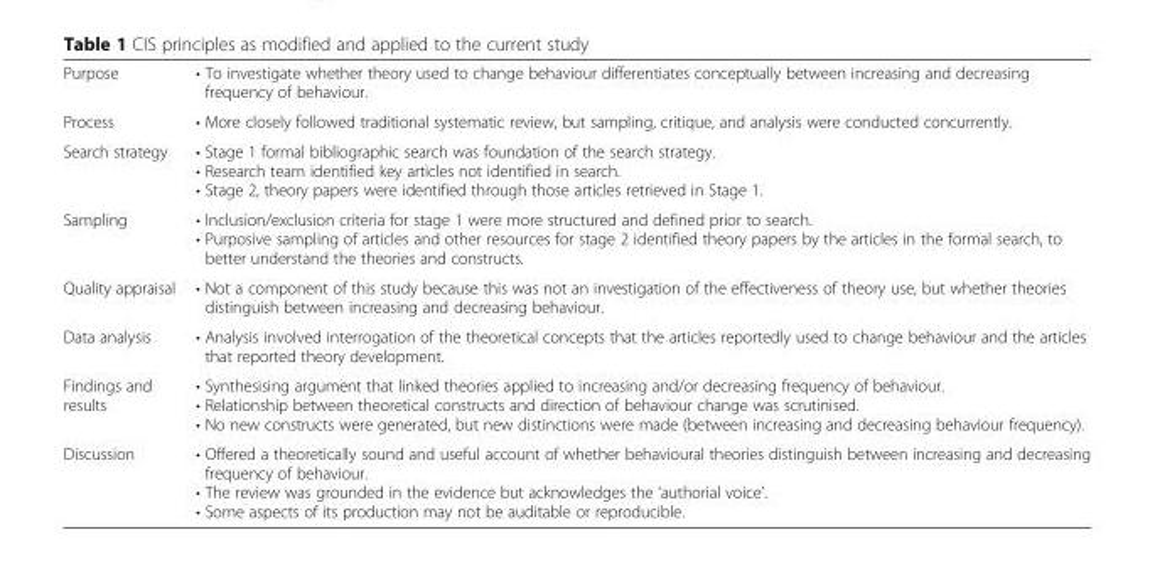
<table><tbody><tr><td>Purpose</td><td>• To investigate whether theory used to change behaviour differentiates conceptually between increasing and decreasing frequency of behaviour.</td></tr><tr><td>Process</td><td>• More closely followed traditional systematic review, but sampling, critique, and analysis were conducted concurrently.</td></tr><tr><td>Search strategy</td><td>• Stage 1 formal bibliographic search was foundation of the search strategy. • Research team identified key articles not identified in search. • Stage 2, theory papers were identified through those articles retrieved in Stage 1.</td></tr><tr><td>Sampling</td><td>• Inclusion/exclusion criteria for stage 1 were more structured and defined prior to search. • Purposive sampling of articles and other resources for stage 2 identified theory papers by the articles in the formal search, to better understand the theories and constructs.</td></tr><tr><td>Quality appraisal</td><td>• Not a component of this study because this was not an investigation of the effectiveness of theory use, but whether theories distinguish between increasing and decreasing behaviour.</td></tr><tr><td>Data analysis</td><td>• Analysis involved interrogation of the theoretical concepts that the articles reportedly used to change behaviour and the articles that reported theory development.</td></tr><tr><td>Findings and results</td><td>• Synthesising argument that linked theories applied to increasing and/or decreasing frequency of behaviour. • Relationship between theoretical constructs and direction of behaviour change was scrutinised. • No new constructs were generated, but new distinctions were made (between increasing and decreasing behaviour frequency).</td></tr><tr><td>Discussion</td><td>• Offered a theoretically sound and useful account of whether behavioural theories distinguish between increasing and decreasing frequency of behaviour. • The review was grounded in the evidence but acknowledges the ‘authorial voice’. • Some aspects of its production may not be auditable or reproducible.</td></tr></tbody></table>